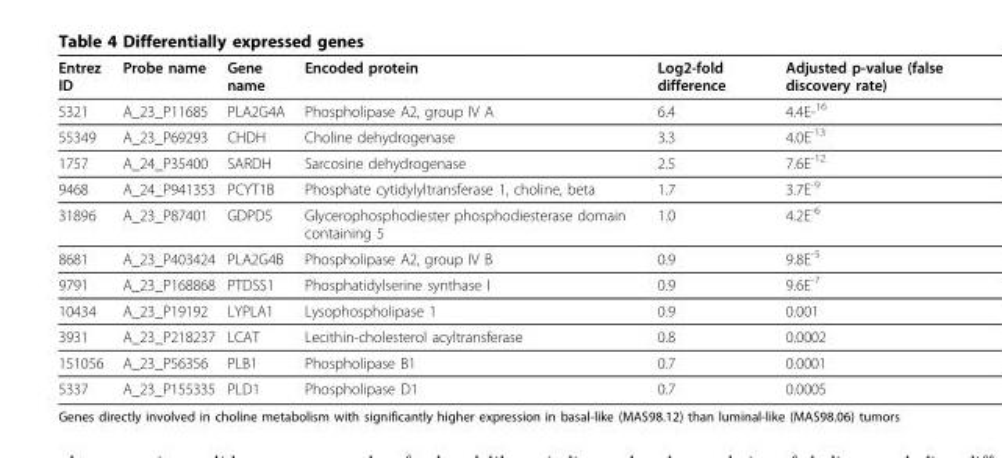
<table><thead><tr><td>Entrez ID</td><td>Probe name</td><td>Gene name</td><td>Encoded protein</td><td>Log2-fold difference</td><td>Adjusted p-value (false discovery rate)</td></tr></thead><tbody><tr><td>5321</td><td>A_23_P11685</td><td>PLA2G4A</td><td>Phospholipase A2, group IV A</td><td>6.4</td><td>4.4E-<sup>16</sup></td></tr><tr><td>55349</td><td>A_23_P69293</td><td>CHDH</td><td>Choline dehydrogenase</td><td>3.3</td><td>4.0E<sup>-13</sup></td></tr><tr><td>1757</td><td>A_24_P35400</td><td>SARDH</td><td>Sarcosine dehydrogenase</td><td>2.5</td><td>7.6E<sup>-12</sup></td></tr><tr><td>9468</td><td>A_24_P941353</td><td>PCYT1B</td><td>Phosphate cytidylyltransferase 1, choline, beta</td><td>1.7</td><td>3.7E<sup>-9</sup></td></tr><tr><td>31896</td><td>A_23_P87401</td><td>GDPD5</td><td>Glycerophosphodiester phosphodiesterase domain containing 5</td><td>1.0</td><td>4.2E<sup>-6</sup></td></tr><tr><td>8681</td><td>A_23_P403424</td><td>PLA2G4B</td><td>Phospholipase A2, group IV B</td><td>0.9</td><td>9.8E<sup>-5</sup></td></tr><tr><td>9791</td><td>A_23_P168868</td><td>PTDSS1</td><td>Phosphatidylserine synthase I</td><td>0.9</td><td>9.6E<sup>-7</sup></td></tr><tr><td>10434</td><td>A_23_P19192</td><td>LYPLA1</td><td>Lysophospholipase 1</td><td>0.9</td><td>0.001</td></tr><tr><td>3931</td><td>A_23_P218237</td><td>LCAT</td><td>Lecithin-cholesterol acyltransferase</td><td>0.8</td><td>0.0002</td></tr><tr><td>151056</td><td>A_23_P56356</td><td>PLB1</td><td>Phospholipase B1</td><td>0.7</td><td>0.0001</td></tr><tr><td>5337</td><td>A_23_P155335</td><td>PLD1</td><td>Phospholipase D1</td><td>0.7</td><td>0.0005</td></tr></tbody></table>